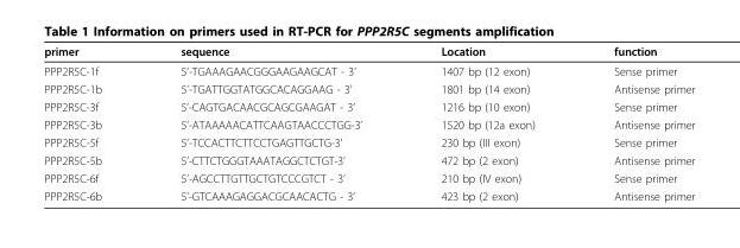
<table><thead><tr><td>primer</td><td>sequence</td><td>Location</td><td>function</td></tr></thead><tbody><tr><td>PPP2R5C-1f</td><td>5’-TGAAAGAACGGGAAGAAGCAT - 3’</td><td>1407 bp (12 exon)</td><td>Sense primer</td></tr><tr><td>PPP2R5C-1b</td><td>5’-TGATTGGTATGGCACAGGAAG - 3’</td><td>1801 bp (14 exon)</td><td>Antisense primer</td></tr><tr><td>PPP2R5C-3f</td><td>5’-CAGTGACAACGCAGCGAAGAT - 3’</td><td>1216 bp (10 exon)</td><td>Sense primer</td></tr><tr><td>PPP2R5C-3b</td><td>5’-ATAAAAACATTCAAGTAACCCTGG-3’</td><td>1520 bp (12a exon)</td><td>Antisense primer</td></tr><tr><td>PPP2R5C-5f</td><td>5’-TCCACTTCTTCCTGAGTTGCTG-3’</td><td>230 bp (III exon)</td><td>Sense primer</td></tr><tr><td>PPP2R5C-5b</td><td>5’-CTTCTGGGTAAATAGGCTCTGT-3’</td><td>472 bp (2 exon)</td><td>Antisense primer</td></tr><tr><td>PPP2R5C-6f</td><td>5’-AGCCTTGTTGCTGTCCCGTCT - 3’</td><td>210 bp (IV exon)</td><td>Sense primer</td></tr><tr><td>PPP2R5C-6b</td><td>5’-GTCAAAGAGGACGCAACACTG - 3’</td><td>423 bp (2 exon)</td><td>Antisense primer</td></tr></tbody></table>